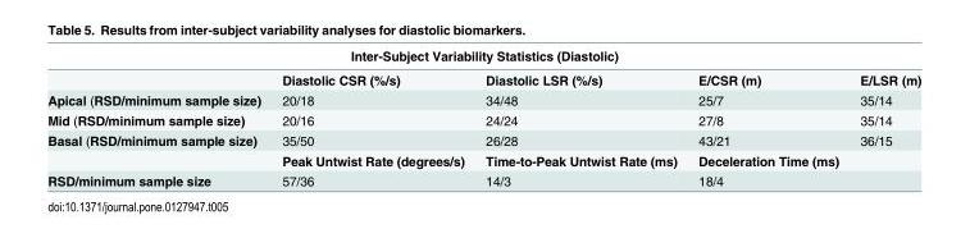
<table><thead><tr><td colspan="5">Inter-Subject Variability Statistics (Diastolic)</td></tr><tr><td></td><td>Diastolic CSR (%/s)</td><td>Diastolic LSR (%/s)</td><td>E/CSR (m)</td><td>E/LSR (m)</td></tr></thead><tbody><tr><td>Apical (RSD/minimum sample size)</td><td>20/18</td><td>34/48</td><td>25/7</td><td>35/14</td></tr><tr><td>Mid (RSD/minimum sample size)</td><td>20/16</td><td>24/24</td><td>27/8</td><td>35/14</td></tr><tr><td rowspan="2">Basal (RSD/minimum sample size)</td><td>35/50</td><td>26/28</td><td>43/21</td><td>36/15</td></tr><tr><td>Peak Untwist Rate (degrees/s)</td><td>Time-to-Peak Untwist Rate (ms)</td><td>Deceleration Time (ms)</td><td></td></tr><tr><td>RSD/minimum sample size</td><td>57/36</td><td>14/3</td><td>18/4</td><td></td></tr></tbody></table>